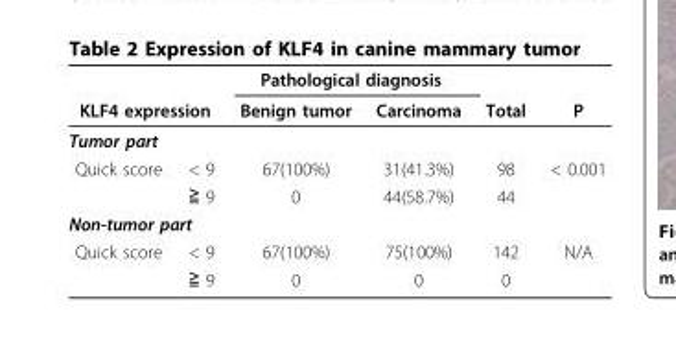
<table><thead><tr><td></td><td></td><td colspan="2">Pathological diagnosis</td><td rowspan="2">Total</td><td rowspan="2">P</td></tr><tr><td colspan="2">KLF4 expression</td><td>Benign tumor</td><td>Carcinoma</td></tr></thead><tbody><tr><td colspan="6">Tumor part</td></tr><tr><td rowspan="2">Quick score</td><td>&lt; 9</td><td>67(100%)</td><td>31(41.3%)</td><td>98</td><td>&lt; 0.001</td></tr><tr><td>≧ 9</td><td>0</td><td>44(58.7%)</td><td>44</td><td></td></tr><tr><td colspan="6">Non-tumor part</td></tr><tr><td rowspan="2">Quick score</td><td>&lt; 9</td><td>67(100%)</td><td>75(100%)</td><td>142</td><td>N/A</td></tr><tr><td>≧ 9</td><td>0</td><td>0</td><td>0</td><td></td></tr></tbody></table>